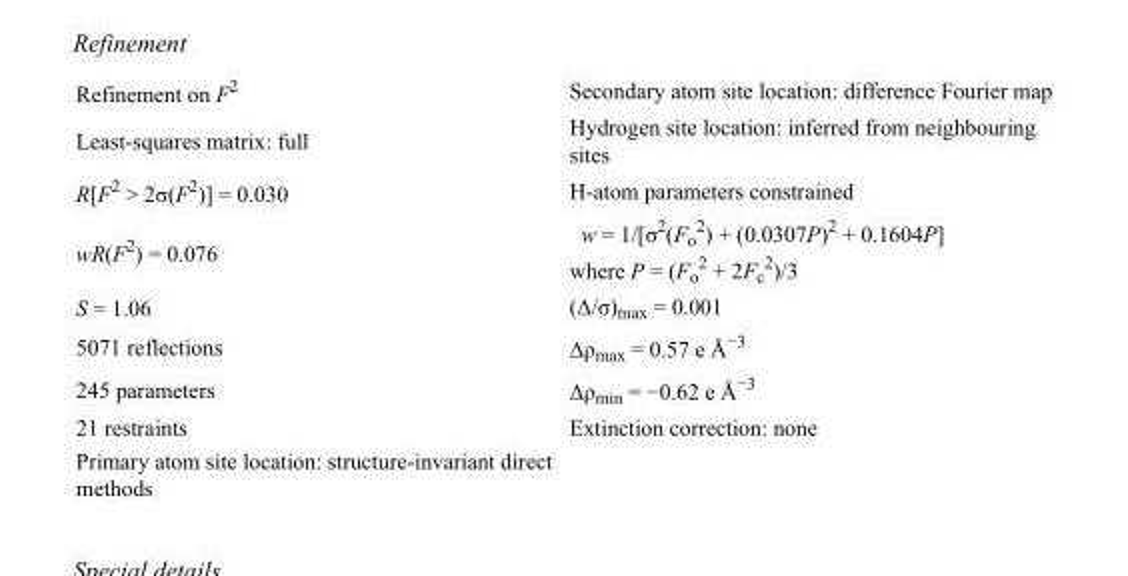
<table><tbody><tr><td>Refinement on F<sup>2</sup></td><td>Secondary atom site location: difference Fourier map</td></tr><tr><td>Least-squares matrix: full</td><td>Hydrogen site location: inferred from neighbouring sites</td></tr><tr><td>R[F<sup>2</sup> &gt; 2σ(F<sup>2</sup>)] = 0.030</td><td>H-atom parameters constrained</td></tr><tr><td>wR(F<sup>2</sup>) = 0.076</td><td>w = 1/[σ<sup>2</sup>(F<sub>o</sub> <sup>2</sup>) + (0.0307P)<sup>2</sup> + 0.1604P] where P = (F<sub>o</sub> <sup>2</sup> + 2F<sub>c</sub> <sup>2</sup>)/3</td></tr><tr><td>S = 1.06</td><td>(Δ/σ)<sub>max</sub> = 0.001</td></tr><tr><td>5071 reflections</td><td>Δρ<sub>max</sub> = 0.57 e Å<sup>−3</sup></td></tr><tr><td>245 parameters</td><td>Δρ<sub>min</sub> = −0.62 e Å<sup>−3</sup></td></tr><tr><td>21 restraints</td><td>Extinction correction: none</td></tr><tr><td>Primary atom site location: structure-invariant direct methods</td><td></td></tr></tbody></table>